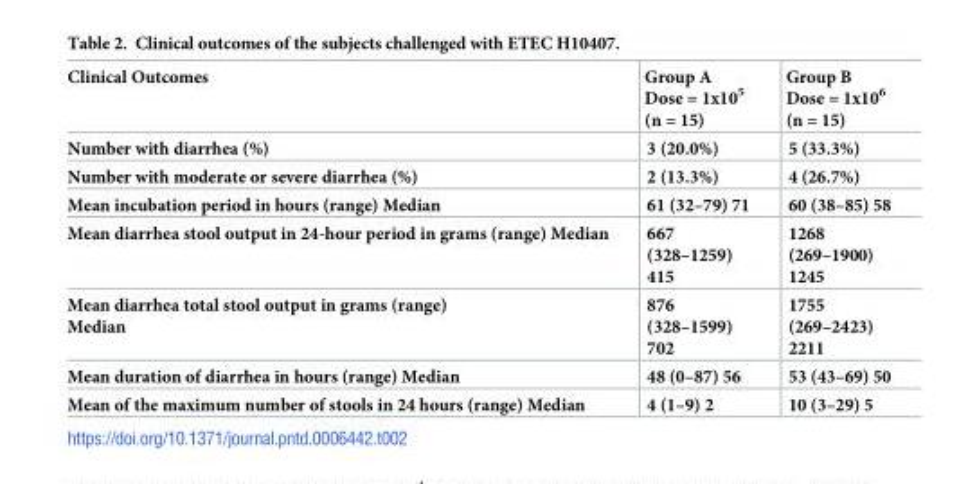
<table><thead><tr><td>Clinical Outcomes</td><td>Group A Dose = 1x10<sup>5</sup> (n = 15)</td><td>Group B Dose = 1x10<sup>6</sup> (n = 15)</td></tr></thead><tbody><tr><td>Number with diarrhea (%)</td><td>3 (20.0%)</td><td>5 (33.3%)</td></tr><tr><td>Number with moderate or severe diarrhea (%)</td><td>2 (13.3%)</td><td>4 (26.7%)</td></tr><tr><td>Mean incubation period in hours (range) Median</td><td>61 (32–79) 71</td><td>60 (38–85) 58</td></tr><tr><td>Mean diarrhea stool output in 24-hour period in grams (range) Median</td><td>667 (328–1259) 415</td><td>1268 (269–1900) 1245</td></tr><tr><td>Mean diarrhea total stool output in grams (range) Median</td><td>876 (328–1599) 702</td><td>1755 (269–2423) 2211</td></tr><tr><td>Mean duration of diarrhea in hours (range) Median</td><td>48 (0–87) 56</td><td>53 (43–69) 50</td></tr><tr><td>Mean of the maximum number of stools in 24 hours (range) Median</td><td>4 (1–9) 2</td><td>10 (3–29) 5</td></tr></tbody></table>